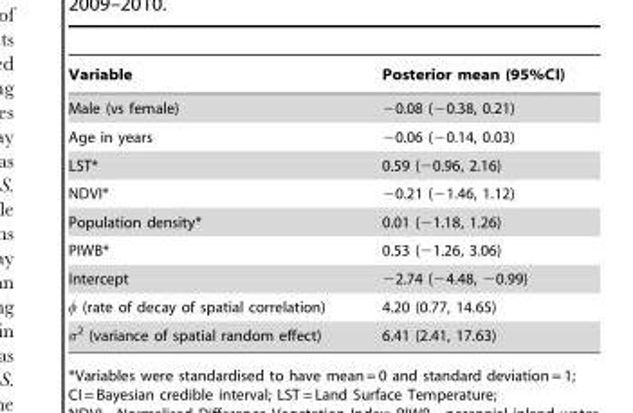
<table><thead><tr><td>Variable</td><td>Posterior mean (95%CI)</td></tr></thead><tbody><tr><td>Male (vs female)</td><td>−0.08 (−0.38, 0.21)</td></tr><tr><td>Age in years</td><td>−0.06 (−0.14, 0.03)</td></tr><tr><td>LST*</td><td>0.59 (−0.96, 2.16)</td></tr><tr><td>NDVI*</td><td>−0.21 (−1.46, 1.12)</td></tr><tr><td>Population density*</td><td>0.01 (−1.18, 1.26)</td></tr><tr><td>PIWB*</td><td>0.53 (−1.26, 3.06)</td></tr><tr><td>Intercept</td><td>−2.74 (−4.48, −0.99)</td></tr><tr><td>φ (rate of decay of spatial correlation)</td><td>4.20 (0.77, 14.65)</td></tr><tr><td>σ<sup>2</sup> (variance of spatial random effect)</td><td>6.41 (2.41, 17.63)</td></tr></tbody></table>